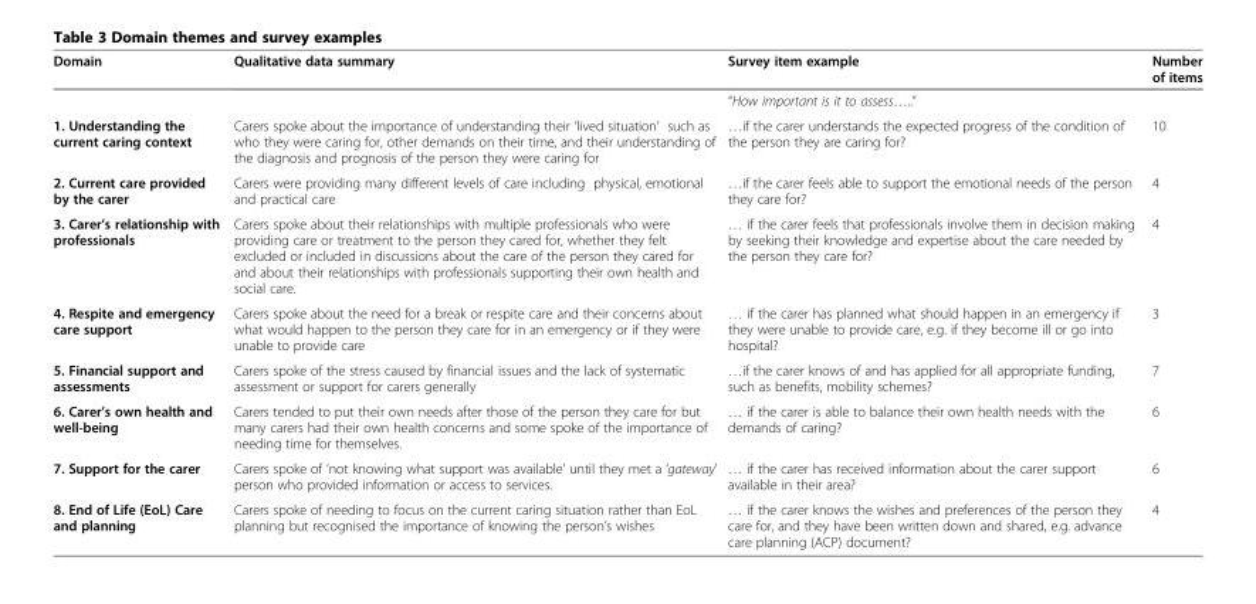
<table><thead><tr><td>Domain</td><td>Qualitative data summary</td><td>Survey item example</td><td>Number of items</td></tr></thead><tbody><tr><td></td><td></td><td>“How important is it to assess…..”</td><td></td></tr><tr><td>1. Understanding the current caring context</td><td>Carers spoke about the importance of understanding their ‘lived situation’ such as who they were caring for, other demands on their time, and their understanding of the diagnosis and prognosis of the person they were caring for</td><td>…if the carer understands the expected progress of the condition of the person they are caring for?</td><td>10</td></tr><tr><td>2. Current care provided by the carer</td><td>Carers were providing many different levels of care including physical, emotional and practical care</td><td>…if the carer feels able to support the emotional needs of the person they care for?</td><td>4</td></tr><tr><td>3. Carer’s relationship with professionals</td><td>Carers spoke about their relationships with multiple professionals who were providing care or treatment to the person they cared for, whether they felt excluded or included in discussions about the care of the person they cared for and about their relationships with professionals supporting their own health and social care.</td><td>… if the carer feels that professionals involve them in decision making by seeking their knowledge and expertise about the care needed by the person they care for?</td><td>4</td></tr><tr><td>4. Respite and emergency care support</td><td>Carers spoke about the need for a break or respite care and their concerns about what would happen to the person they care for in an emergency or if they were unable to provide care</td><td>… if the carer has planned what should happen in an emergency if they were unable to provide care, e.g. if they become ill or go into hospital?</td><td>3</td></tr><tr><td>5. Financial support and assessments</td><td>Carers spoke of the stress caused by financial issues and the lack of systematic assessment or support for carers generally</td><td>…if the carer knows of and has applied for all appropriate funding, such as benefits, mobility schemes?</td><td>7</td></tr><tr><td>6. Carer’s own health and well-being</td><td>Carers tended to put their own needs after those of the person they care for but many carers had their own health concerns and some spoke of the importance of needing time for themselves.</td><td>… if the carer is able to balance their own health needs with the demands of caring?</td><td>6</td></tr><tr><td>7. Support for the carer</td><td>Carers spoke of ‘not knowing what support was available’ until they met a ‘gateway’ person who provided information or access to services.</td><td>… if the carer has received information about the carer support available in their area?</td><td>6</td></tr><tr><td>8. End of Life (EoL) Care and planning</td><td>Carers spoke of needing to focus on the current caring situation rather than EoL planning but recognised the importance of knowing the person’s wishes</td><td>… if the carer knows the wishes and preferences of the person they care for, and they have been written down and shared, e.g. advance care planning (ACP) document?</td><td>4</td></tr></tbody></table>